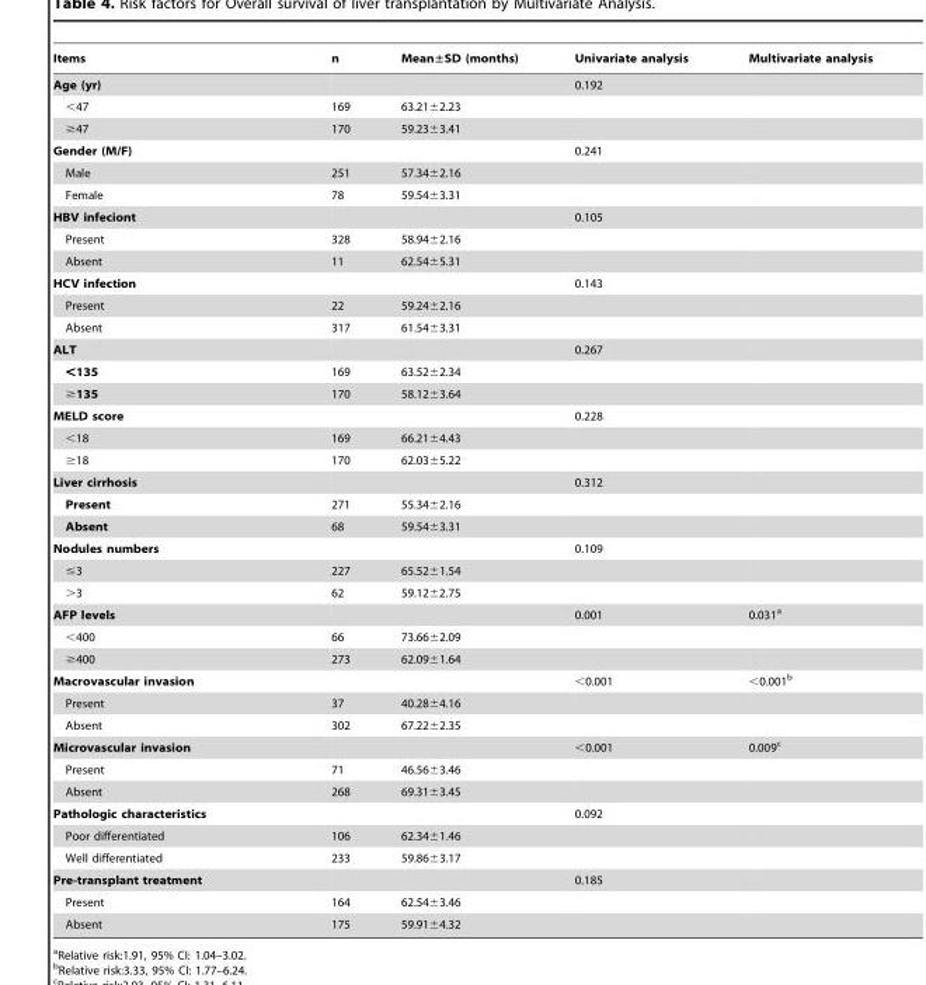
<table><thead><tr><td>Items</td><td>n</td><td>Mean±SD (months)</td><td>Univariate analysis</td><td>Multivariate analysis</td></tr></thead><tbody><tr><td>Age (yr)</td><td></td><td></td><td>0.192</td><td></td></tr><tr><td>&lt;47</td><td>169</td><td>63.21±2.23</td><td></td><td></td></tr><tr><td>≥47</td><td>170</td><td>59.23±3.41</td><td></td><td></td></tr><tr><td>Gender (M/F)</td><td></td><td></td><td>0.241</td><td></td></tr><tr><td>Male</td><td>251</td><td>57.34±2.16</td><td></td><td></td></tr><tr><td>Female</td><td>78</td><td>59.54±3.31</td><td></td><td></td></tr><tr><td>HBV infeciont</td><td></td><td></td><td>0.105</td><td></td></tr><tr><td>Present</td><td>328</td><td>58.94±2.16</td><td></td><td></td></tr><tr><td>Absent</td><td>11</td><td>62.54±5.31</td><td></td><td></td></tr><tr><td>HCV infection</td><td></td><td></td><td>0.143</td><td></td></tr><tr><td>Present</td><td>22</td><td>59.24±2.16</td><td></td><td></td></tr><tr><td>Absent</td><td>317</td><td>61.54±3.31</td><td></td><td></td></tr><tr><td>ALT</td><td></td><td></td><td>0.267</td><td></td></tr><tr><td>&lt;135</td><td>169</td><td>63.52±2.34</td><td></td><td></td></tr><tr><td>≥135</td><td>170</td><td>58.12±3.64</td><td></td><td></td></tr><tr><td>MELD score</td><td></td><td></td><td>0.228</td><td></td></tr><tr><td>&lt;18</td><td>169</td><td>66.21±4.43</td><td></td><td></td></tr><tr><td>≥18</td><td>170</td><td>62.03±5.22</td><td></td><td></td></tr><tr><td>Liver cirrhosis</td><td></td><td></td><td>0.312</td><td></td></tr><tr><td>Present</td><td>271</td><td>55.34±2.16</td><td></td><td></td></tr><tr><td>Absent</td><td>68</td><td>59.54±3.31</td><td></td><td></td></tr><tr><td>Nodules numbers</td><td></td><td></td><td>0.109</td><td></td></tr><tr><td>≤3</td><td>227</td><td>65.52±1.54</td><td></td><td></td></tr><tr><td>&gt;3</td><td>62</td><td>59.12±2.75</td><td></td><td></td></tr><tr><td>AFP levels</td><td></td><td></td><td>0.001</td><td>0.031a</td></tr><tr><td>&lt;400</td><td>66</td><td>73.66±2.09</td><td></td><td></td></tr><tr><td>≥400</td><td>273</td><td>62.09±1.64</td><td></td><td></td></tr><tr><td>Macrovascular invasion</td><td></td><td></td><td>&lt;0.001</td><td>&lt;0.001b</td></tr><tr><td>Present</td><td>37</td><td>40.28±4.16</td><td></td><td></td></tr><tr><td>Absent</td><td>302</td><td>67.22±2.35</td><td></td><td></td></tr><tr><td>Microvascular invasion</td><td></td><td></td><td>&lt;0.001</td><td>0.009c</td></tr><tr><td>Present</td><td>71</td><td>46.56±3.46</td><td></td><td></td></tr><tr><td>Absent</td><td>268</td><td>69.31±3.45</td><td></td><td></td></tr><tr><td>Pathologic characteristics</td><td></td><td></td><td>0.092</td><td></td></tr><tr><td>Poor differentiated</td><td>106</td><td>62.34±1.46</td><td></td><td></td></tr><tr><td>Well differentiated</td><td>233</td><td>59.86±3.17</td><td></td><td></td></tr><tr><td>Pre-transplant treatment</td><td></td><td></td><td>0.185</td><td></td></tr><tr><td>Present</td><td>164</td><td>62.54±3.46</td><td></td><td></td></tr><tr><td>Absent</td><td>175</td><td>59.91±4.32</td><td></td><td></td></tr></tbody></table>